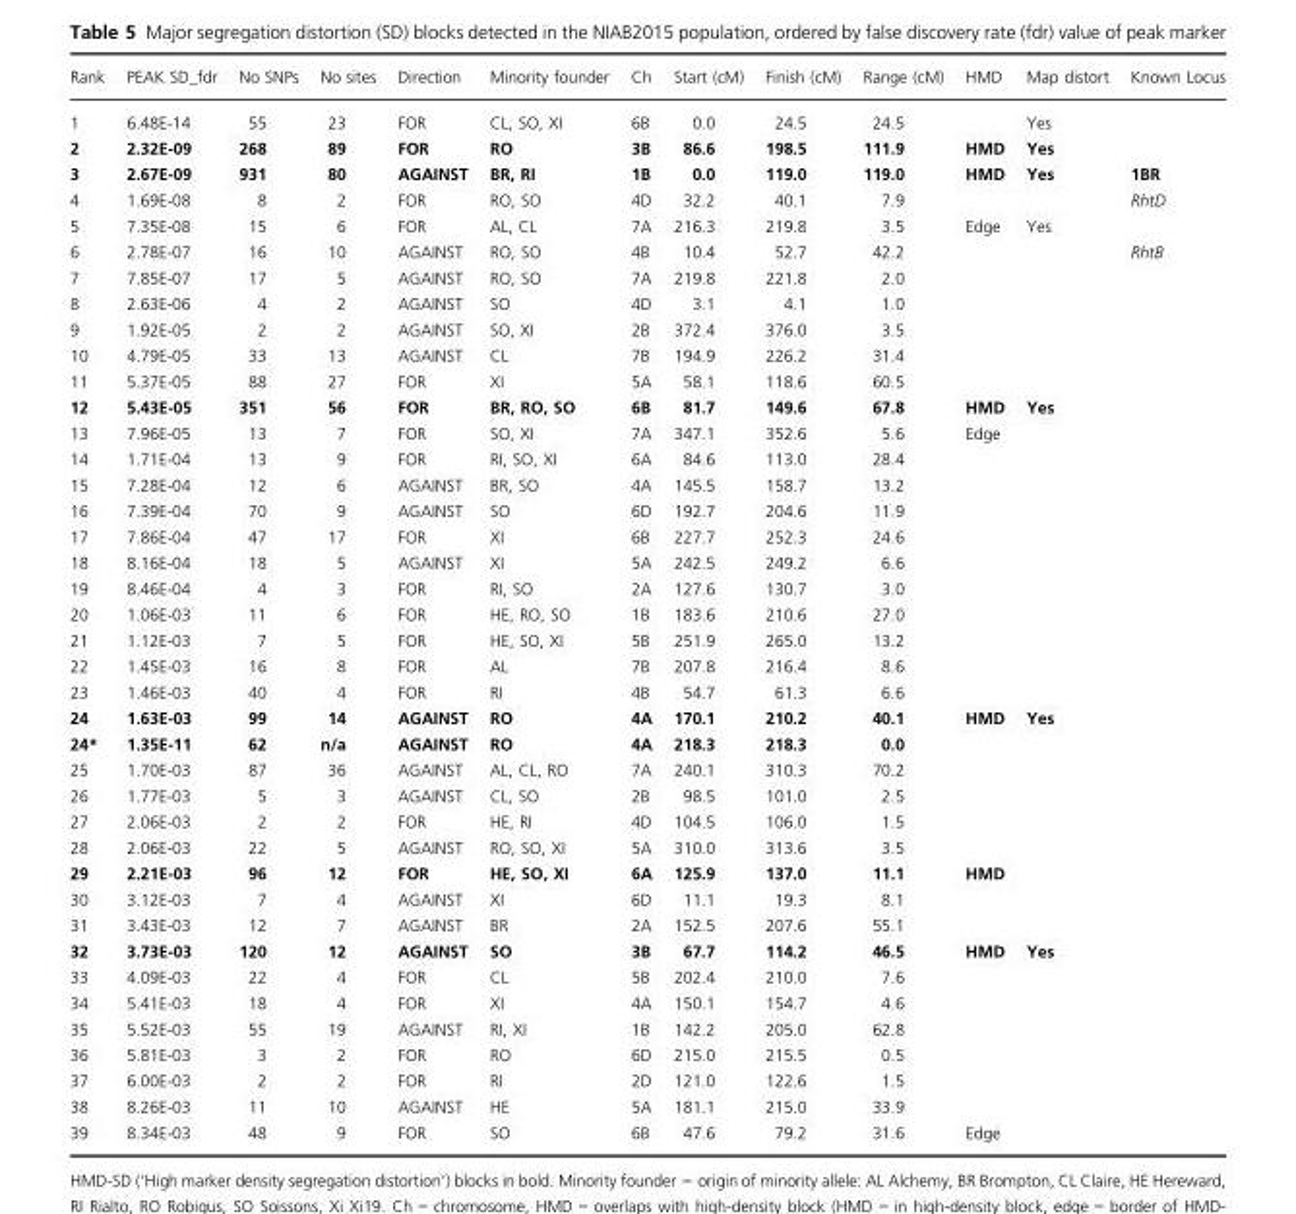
<table><thead><tr><td>Rank</td><td>PEAK SD_fdr</td><td>No SNPs</td><td>No sites</td><td>Direction</td><td>Minority founder</td><td>Ch</td><td>Start (cM)</td><td>Finish (cM)</td><td>Range (cM)</td><td>HMD</td><td>Map distort</td><td>Known Locus</td></tr></thead><tbody><tr><td>1</td><td>6.48E-14</td><td>55</td><td>23</td><td>FOR</td><td>CL, SO, XI</td><td>6B</td><td>0.0</td><td>24.5</td><td>24.5</td><td></td><td>Yes</td><td></td></tr><tr><td>2</td><td>2.32E-09</td><td>268</td><td>89</td><td>FOR</td><td>RO</td><td>3B</td><td>86.6</td><td>198.5</td><td>111.9</td><td>HMD</td><td>Yes</td><td></td></tr><tr><td>3</td><td>2.67E-09</td><td>931</td><td>80</td><td>AGAINST</td><td>BR, RI</td><td>1B</td><td>0.0</td><td>119.0</td><td>119.0</td><td>HMD</td><td>Yes</td><td>1BR</td></tr><tr><td>4</td><td>1.69E-08</td><td>8</td><td>2</td><td>FOR</td><td>RO, SO</td><td>4D</td><td>32.2</td><td>40.1</td><td>7.9</td><td></td><td></td><td>RhtD</td></tr><tr><td>5</td><td>7.35E-08</td><td>15</td><td>6</td><td>FOR</td><td>AL, CL</td><td>7A</td><td>216.3</td><td>219.8</td><td>3.5</td><td>Edge</td><td>Yes</td><td></td></tr><tr><td>6</td><td>2.78E-07</td><td>16</td><td>10</td><td>AGAINST</td><td>RO, SO</td><td>4B</td><td>10.4</td><td>52.7</td><td>42.2</td><td></td><td></td><td>RhtB</td></tr><tr><td>7</td><td>7.85E-07</td><td>17</td><td>5</td><td>AGAINST</td><td>RO, SO</td><td>7A</td><td>219.8</td><td>221.8</td><td>2.0</td><td></td><td></td><td></td></tr><tr><td>8</td><td>2.63E-06</td><td>4</td><td>2</td><td>AGAINST</td><td>SO</td><td>4D</td><td>3.1</td><td>4.1</td><td>1.0</td><td></td><td></td><td></td></tr><tr><td>9</td><td>1.92E-05</td><td>2</td><td>2</td><td>AGAINST</td><td>SO, XI</td><td>2B</td><td>372.4</td><td>376.0</td><td>3.5</td><td></td><td></td><td></td></tr><tr><td>10</td><td>4.79E-05</td><td>33</td><td>13</td><td>AGAINST</td><td>CL</td><td>7B</td><td>194.9</td><td>226.2</td><td>31.4</td><td></td><td></td><td></td></tr><tr><td>11</td><td>5.37E-05</td><td>88</td><td>27</td><td>FOR</td><td>XI</td><td>5A</td><td>58.1</td><td>118.6</td><td>60.5</td><td></td><td></td><td></td></tr><tr><td>12</td><td>5.43E-05</td><td>351</td><td>56</td><td>FOR</td><td>BR, RO, SO</td><td>6B</td><td>81.7</td><td>149.6</td><td>67.8</td><td>HMD</td><td>Yes</td><td></td></tr><tr><td>13</td><td>7.96E-05</td><td>13</td><td>7</td><td>FOR</td><td>SO, XI</td><td>7A</td><td>347.1</td><td>352.6</td><td>5.6</td><td>Edge</td><td></td><td></td></tr><tr><td>14</td><td>1.71E-04</td><td>13</td><td>9</td><td>FOR</td><td>RI, SO, XI</td><td>6A</td><td>84.6</td><td>113.0</td><td>28.4</td><td></td><td></td><td></td></tr><tr><td>15</td><td>7.28E-04</td><td>12</td><td>6</td><td>AGAINST</td><td>BR, SO</td><td>4A</td><td>145.5</td><td>158.7</td><td>13.2</td><td></td><td></td><td></td></tr><tr><td>16</td><td>7.39E-04</td><td>70</td><td>9</td><td>AGAINST</td><td>SO</td><td>6D</td><td>192.7</td><td>204.6</td><td>11.9</td><td></td><td></td><td></td></tr><tr><td>17</td><td>7.86E-04</td><td>47</td><td>17</td><td>FOR</td><td>XI</td><td>6B</td><td>227.7</td><td>252.3</td><td>24.6</td><td></td><td></td><td></td></tr><tr><td>18</td><td>8.16E-04</td><td>18</td><td>5</td><td>AGAINST</td><td>XI</td><td>5A</td><td>242.5</td><td>249.2</td><td>6.6</td><td></td><td></td><td></td></tr><tr><td>19</td><td>8.46E-04</td><td>4</td><td>3</td><td>FOR</td><td>RI, SO</td><td>2A</td><td>127.6</td><td>130.7</td><td>3.0</td><td></td><td></td><td></td></tr><tr><td>20</td><td>1.06E-03</td><td>11</td><td>6</td><td>FOR</td><td>HE, RO, SO</td><td>1B</td><td>183.6</td><td>210.6</td><td>27.0</td><td></td><td></td><td></td></tr><tr><td>21</td><td>1.12E-03</td><td>7</td><td>5</td><td>FOR</td><td>HE, SO, XI</td><td>5B</td><td>251.9</td><td>265.0</td><td>13.2</td><td></td><td></td><td></td></tr><tr><td>22</td><td>1.45E-03</td><td>16</td><td>8</td><td>FOR</td><td>AL</td><td>7B</td><td>207.8</td><td>216.4</td><td>8.6</td><td></td><td></td><td></td></tr><tr><td>23</td><td>1.46E-03</td><td>40</td><td>4</td><td>FOR</td><td>RI</td><td>4B</td><td>54.7</td><td>61.3</td><td>6.6</td><td></td><td></td><td></td></tr><tr><td>24</td><td>1.63E-03</td><td>99</td><td>14</td><td>AGAINST</td><td>RO</td><td>4A</td><td>170.1</td><td>210.2</td><td>40.1</td><td>HMD</td><td>Yes</td><td></td></tr><tr><td>24*</td><td>1.35E-11</td><td>62</td><td>n/a</td><td>AGAINST</td><td>RO</td><td>4A</td><td>218.3</td><td>218.3</td><td>0.0</td><td></td><td></td><td></td></tr><tr><td>25</td><td>1.70E-03</td><td>87</td><td>36</td><td>AGAINST</td><td>AL, CL, RO</td><td>7A</td><td>240.1</td><td>310.3</td><td>70.2</td><td></td><td></td><td></td></tr><tr><td>26</td><td>1.77E-03</td><td>5</td><td>3</td><td>AGAINST</td><td>CL, SO</td><td>2B</td><td>98.5</td><td>101.0</td><td>2.5</td><td></td><td></td><td></td></tr><tr><td>27</td><td>2.06E-03</td><td>2</td><td>2</td><td>FOR</td><td>HE, RI</td><td>4D</td><td>104.5</td><td>106.0</td><td>1.5</td><td></td><td></td><td></td></tr><tr><td>28</td><td>2.06E-03</td><td>22</td><td>5</td><td>AGAINST</td><td>RO, SO, XI</td><td>5A</td><td>310.0</td><td>313.6</td><td>3.5</td><td></td><td></td><td></td></tr><tr><td>29</td><td>2.21E-03</td><td>96</td><td>12</td><td>FOR</td><td>HE, SO, XI</td><td>6A</td><td>125.9</td><td>137.0</td><td>11.1</td><td>HMD</td><td></td><td></td></tr><tr><td>30</td><td>3.12E-03</td><td>7</td><td>4</td><td>AGAINST</td><td>XI</td><td>6D</td><td>11.1</td><td>19.3</td><td>8.1</td><td></td><td></td><td></td></tr><tr><td>31</td><td>3.43E-03</td><td>12</td><td>7</td><td>AGAINST</td><td>BR</td><td>2A</td><td>152.5</td><td>207.6</td><td>55.1</td><td></td><td></td><td></td></tr><tr><td>32</td><td>3.73E-03</td><td>120</td><td>12</td><td>AGAINST</td><td>SO</td><td>3B</td><td>67.7</td><td>114.2</td><td>46.5</td><td>HMD</td><td>Yes</td><td></td></tr><tr><td>33</td><td>4.09E-03</td><td>22</td><td>4</td><td>FOR</td><td>CL</td><td>5B</td><td>202.4</td><td>210.0</td><td>7.6</td><td></td><td></td><td></td></tr><tr><td>34</td><td>5.41E-03</td><td>18</td><td>4</td><td>FOR</td><td>XI</td><td>4A</td><td>150.1</td><td>154.7</td><td>4.6</td><td></td><td></td><td></td></tr><tr><td>35</td><td>5.52E-03</td><td>55</td><td>19</td><td>AGAINST</td><td>RI, XI</td><td>1B</td><td>142.2</td><td>205.0</td><td>62.8</td><td></td><td></td><td></td></tr><tr><td>36</td><td>5.81E-03</td><td>3</td><td>2</td><td>FOR</td><td>RO</td><td>6D</td><td>215.0</td><td>215.5</td><td>0.5</td><td></td><td></td><td></td></tr><tr><td>37</td><td>6.00E-03</td><td>2</td><td>2</td><td>FOR</td><td>RI</td><td>2D</td><td>121.0</td><td>122.6</td><td>1.5</td><td></td><td></td><td></td></tr><tr><td>38</td><td>8.26E-03</td><td>11</td><td>10</td><td>AGAINST</td><td>HE</td><td>5A</td><td>181.1</td><td>215.0</td><td>33.9</td><td></td><td></td><td></td></tr><tr><td>39</td><td>8.34E-03</td><td>48</td><td>9</td><td>FOR</td><td>SO</td><td>6B</td><td>47.6</td><td>79.2</td><td>31.6</td><td>Edge</td><td></td><td></td></tr></tbody></table>